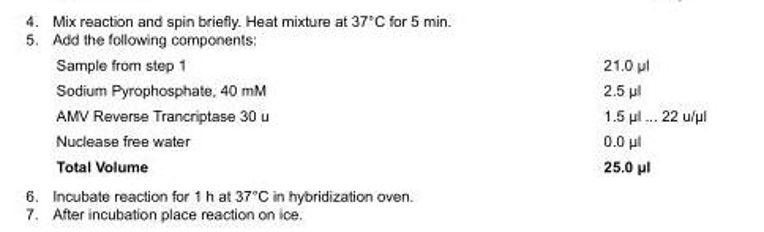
<table><tbody><tr><td>Sample from step 1</td><td>21.0 μl</td></tr><tr><td>Sodium Pyrophosphate, 40 mM</td><td>2.5 μl</td></tr><tr><td>AMV Reverse Trancriptase 30 u</td><td>1.5 μl ... 22 u/μl</td></tr><tr><td>Nuclease free water</td><td>0.0 μl</td></tr><tr><td>Total Volume</td><td>25.0 μl</td></tr></tbody></table>